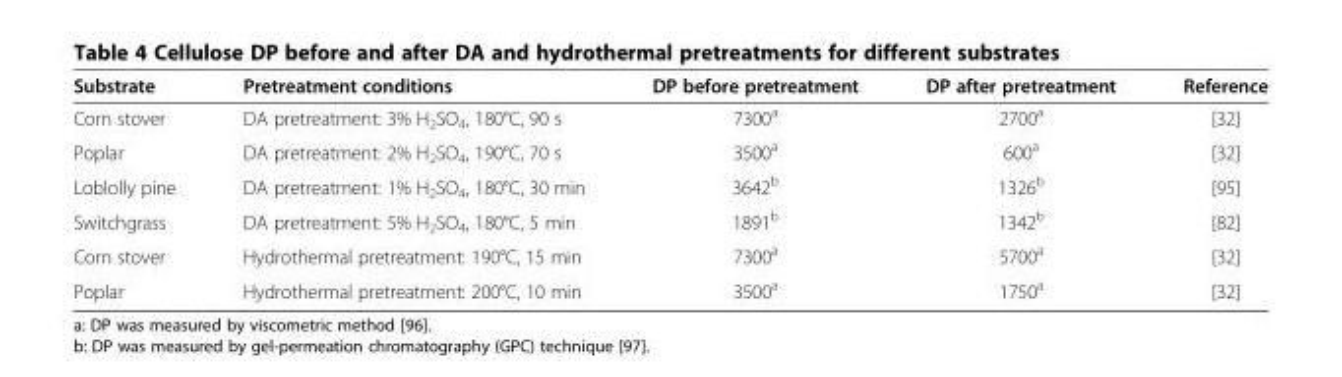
<table><thead><tr><td>Substrate</td><td>Pretreatment conditions</td><td>DP before pretreatment</td><td>DP after pretreatment</td><td>Reference</td></tr></thead><tbody><tr><td>Corn stover</td><td>DA pretreatment: 3% H<sub>2</sub>SO<sub>4</sub>, 180°C, 90 s</td><td>7300<sup>a</sup></td><td>2700<sup>a</sup></td><td>[32]</td></tr><tr><td>Poplar</td><td>DA pretreatment: 2% H<sub>2</sub>SO<sub>4</sub>, 190°C, 70 s</td><td>3500<sup>a</sup></td><td>600<sup>a</sup></td><td>[32]</td></tr><tr><td>Loblolly pine</td><td>DA pretreatment: 1% H<sub>2</sub>SO<sub>4</sub>, 180°C, 30 min</td><td>3642<sup>b</sup></td><td>1326<sup>b</sup></td><td>[95]</td></tr><tr><td>Switchgrass</td><td>DA pretreatment: 5% H<sub>2</sub>SO<sub>4</sub>, 180°C, 5 min</td><td>1891<sup>b</sup></td><td>1342<sup>b</sup></td><td>[82]</td></tr><tr><td>Corn stover</td><td>Hydrothermal pretreatment: 190°C, 15 min</td><td>7300<sup>a</sup></td><td>5700<sup>a</sup></td><td>[32]</td></tr><tr><td>Poplar</td><td>Hydrothermal pretreatment: 200°C, 10 min</td><td>3500<sup>a</sup></td><td>1750<sup>a</sup></td><td>[32]</td></tr></tbody></table>